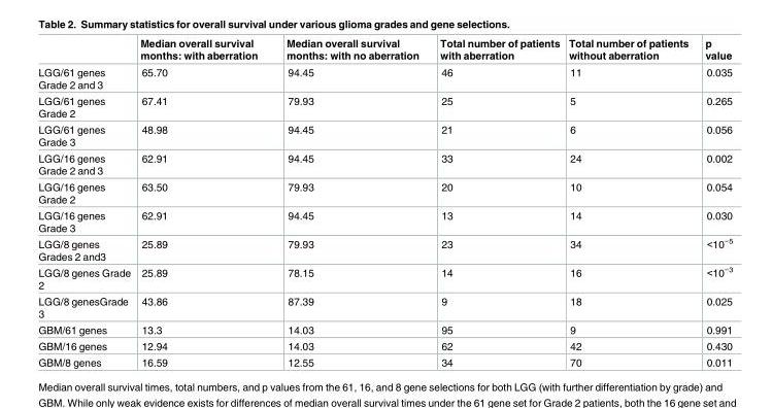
<table><thead><tr><td></td><td>Median overall survival months: with aberration</td><td>Median overall survival months: with no aberration</td><td>Total number of patients with aberration</td><td>Total number of patients without aberration</td><td>p value</td></tr></thead><tbody><tr><td>LGG/61 genes Grade 2 and 3</td><td>65.70</td><td>94.45</td><td>46</td><td>11</td><td>0.035</td></tr><tr><td>LGG/61 genes Grade 2</td><td>67.41</td><td>79.93</td><td>25</td><td>5</td><td>0.265</td></tr><tr><td>LGG/61 genes Grade 3</td><td>48.98</td><td>94.45</td><td>21</td><td>6</td><td>0.056</td></tr><tr><td>LGG/16 genes Grade 2 and 3</td><td>62.91</td><td>94.45</td><td>33</td><td>24</td><td>0.002</td></tr><tr><td>LGG/16 genes Grade 2</td><td>63.50</td><td>79.93</td><td>20</td><td>10</td><td>0.054</td></tr><tr><td>LGG/16 genes Grade 3</td><td>62.91</td><td>94.45</td><td>13</td><td>14</td><td>0.030</td></tr><tr><td>LGG/8 genes Grades 2 and3</td><td>25.89</td><td>79.93</td><td>23</td><td>34</td><td>&lt;10<sup>−5</sup></td></tr><tr><td>LGG/8 genes Grade 2</td><td>25.89</td><td>78.15</td><td>14</td><td>16</td><td>&lt;10<sup>−3</sup></td></tr><tr><td>LGG/8 genesGrade 3</td><td>43.86</td><td>87.39</td><td>9</td><td>18</td><td>0.025</td></tr><tr><td>GBM/61 genes</td><td>13.3</td><td>14.03</td><td>95</td><td>9</td><td>0.991</td></tr><tr><td>GBM/16 genes</td><td>12.94</td><td>14.03</td><td>62</td><td>42</td><td>0.430</td></tr><tr><td>GBM/8 genes</td><td>16.59</td><td>12.55</td><td>34</td><td>70</td><td>0.011</td></tr></tbody></table>